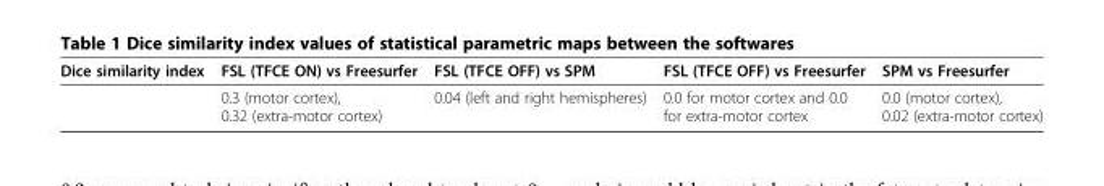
<table><thead><tr><td>Dice similarity index</td><td>FSL (TFCE ON) vs Freesurfer</td><td>FSL (TFCE OFF) vs SPM</td><td>FSL (TFCE OFF) vs Freesurfer</td><td>SPM vs Freesurfer</td></tr></thead><tbody><tr><td></td><td>0.3 (motor cortex), 0.32 (extra-motor cortex)</td><td>0.04 (left and right hemispheres)</td><td>0.0 for motor cortex and 0.0 for extra-motor cortex</td><td>0.0 (motor cortex), 0.02 (extra-motor cortex)</td></tr></tbody></table>